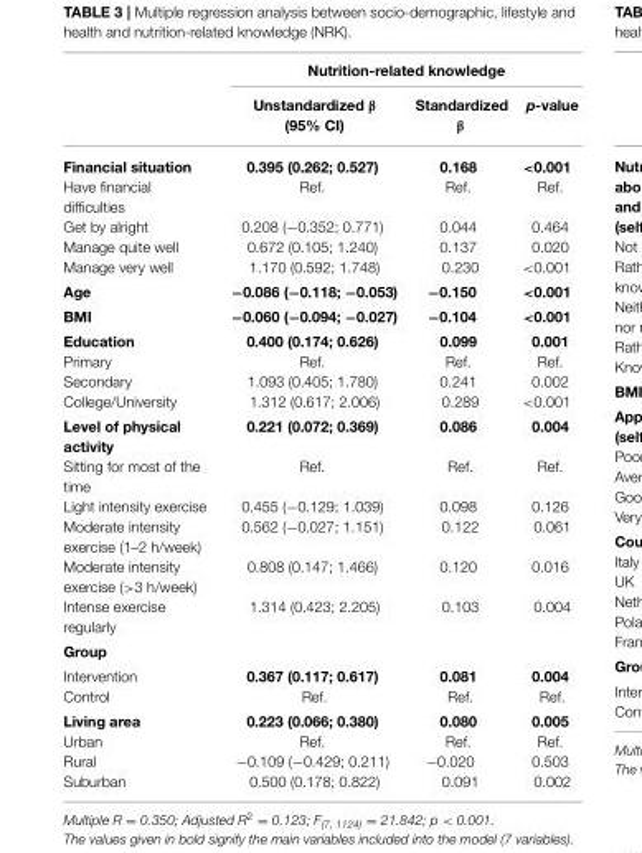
<table><thead><tr><td rowspan="2"></td><td colspan="3">Nutrition-related knowledge</td></tr><tr><td>Unstandardized β (95% CI)</td><td>Standardized β</td><td>p-value</td></tr></thead><tbody><tr><td>Financial situation Have financial difficulties Get by alright Manage quite well Manage very well</td><td>0.395 (0.262; 0.527) Ref. 0.208 (−0.352; 0.771) 0.672 (0.105; 1.240) 1.170 (0.592; 1.748)</td><td>0.168 Ref. 0.044 0.137 0.230</td><td>&lt;0.001 Ref. 0.464 0.020 &lt;0.001</td></tr><tr><td>Age</td><td>−0.086 (−0.118; −0.053)</td><td>−0.150</td><td>&lt;0.001</td></tr><tr><td>BMI</td><td>−0.060 (−0.094; −0.027)</td><td>−0.104</td><td>&lt;0.001</td></tr><tr><td>Education Primary Secondary College/University</td><td>0.400 (0.174; 0.626) Ref. 1.093 (0.405; 1.780) 1.312 (0.617; 2.006)</td><td>0.099 Ref. 0.241 0.289</td><td>0.001 Ref. 0.002 &lt;0.001</td></tr><tr><td>Level of physical activity Sitting for most of the time Light intensity exercise Moderate intensity exercise (1–2 h/week) Moderate intensity exercise (&gt;3 h/week) Intense exercise regularly</td><td>0.221 (0.072; 0.369) Ref. 0.455 (−0.129; 1.039) 0.562 (−0.027; 1.151) 0.808 (0.147; 1.466) 1.314 (0.423; 2.205)</td><td>0.086 Ref. 0.098 0.122 0.120 0.103</td><td>0.004 Ref. 0.126 0.061 0.016 0.004</td></tr><tr><td colspan="4">Group</td></tr><tr><td>Intervention Control</td><td>0.367 (0.117; 0.617) Ref.</td><td>0.081 Ref.</td><td>0.004 Ref.</td></tr><tr><td>Living area Urban Rural Suburban</td><td>0.223 (0.066; 0.380) Ref. −0.109 (−0.429; 0.211) 0.500 (0.178; 0.822)</td><td>0.080 Ref. −0.020 0.091</td><td>0.005 Ref. 0.503 0.002</td></tr></tbody></table>